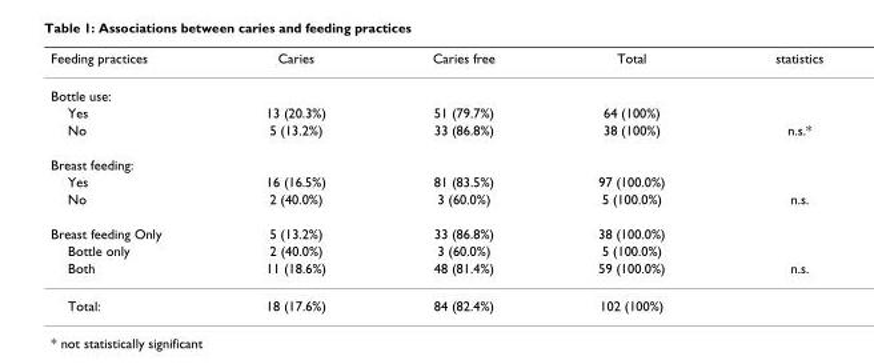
<table><thead><tr><td>Feeding practices</td><td>Caries</td><td>Caries free</td><td>Total</td><td>statistics</td></tr></thead><tbody><tr><td colspan="5">Bottle use:</td></tr><tr><td>Yes</td><td>13 (20.3%)</td><td>51 (79.7%)</td><td>64 (100%)</td><td></td></tr><tr><td>No</td><td>5 (13.2%)</td><td>33 (86.8%)</td><td>38 (100%)</td><td>n.s.*</td></tr><tr><td colspan="5">Breast feeding:</td></tr><tr><td>Yes</td><td>16 (16.5%)</td><td>81 (83.5%)</td><td>97 (100.0%)</td><td></td></tr><tr><td>No</td><td>2 (40.0%)</td><td>3 (60.0%)</td><td>5 (100.0%)</td><td>n.s.</td></tr><tr><td>Breast feeding Only</td><td>5 (13.2%)</td><td>33 (86.8%)</td><td>38 (100.0%)</td><td></td></tr><tr><td>Bottle only</td><td>2 (40.0%)</td><td>3 (60.0%)</td><td>5 (100.0%)</td><td></td></tr><tr><td>Both</td><td>11 (18.6%)</td><td>48 (81.4%)</td><td>59 (100.0%)</td><td>n.s.</td></tr><tr><td>Total:</td><td>18 (17.6%)</td><td>84 (82.4%)</td><td>102 (100%)</td><td></td></tr></tbody></table>